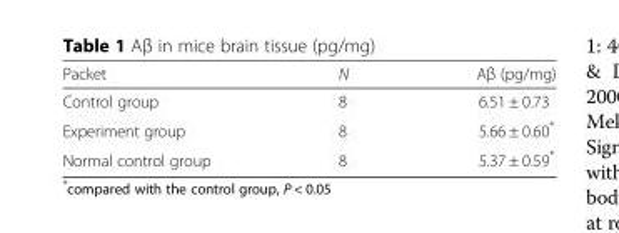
<table><thead><tr><td>Packet</td><td>N</td><td>Aβ (pg/mg)</td></tr></thead><tbody><tr><td>Control group</td><td>8</td><td>6.51 ± 0.73</td></tr><tr><td>Experiment group</td><td>8</td><td>5.66 ± 0.60*</td></tr><tr><td>Normal control group</td><td>8</td><td>5.37 ± 0.59*</td></tr></tbody></table>